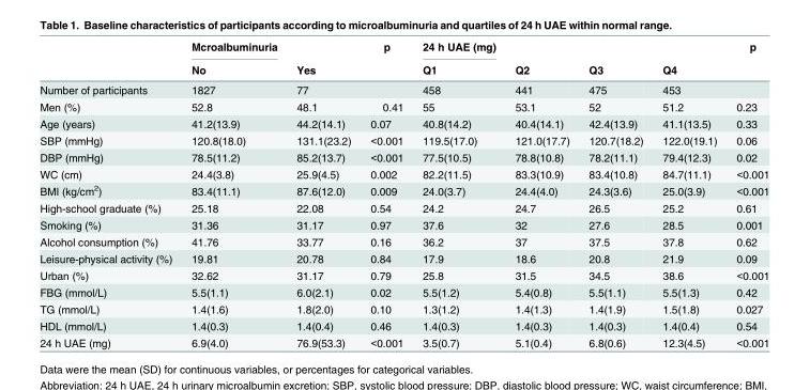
<table><thead><tr><td rowspan="2"></td><td rowspan="2">Mcroalbuminuria No</td><td rowspan="2">Yes</td><td rowspan="2">p</td><td rowspan="2">24 h UAE (mg) Q1</td><td rowspan="2">Q2</td><td rowspan="2">Q3</td><td rowspan="2">Q4</td><td rowspan="2">p</td></tr><tr></tr></thead><tbody><tr><td>Number of participants</td><td>1827</td><td>77</td><td></td><td>458</td><td>441</td><td>475</td><td>453</td><td></td></tr><tr><td>Men (%)</td><td>52.8</td><td>48.1</td><td>0.41</td><td>55</td><td>53.1</td><td>52</td><td>51.2</td><td>0.23</td></tr><tr><td>Age (years)</td><td>41.2(13.9)</td><td>44.2(14.1)</td><td>0.07</td><td>40.8(14.2)</td><td>40.4(14.1)</td><td>42.4(13.9)</td><td>41.1(13.5)</td><td>0.33</td></tr><tr><td>SBP (mmHg)</td><td>120.8(18.0)</td><td>131.1(23.2)</td><td>&lt;0.001</td><td>119.5(17.0)</td><td>121.0(17.7)</td><td>120.7(18.2)</td><td>122.0(19.1)</td><td>0.06</td></tr><tr><td>DBP (mmHg)</td><td>78.5(11.2)</td><td>85.2(13.7)</td><td>&lt;0.001</td><td>77.5(10.5)</td><td>78.8(10.8)</td><td>78.2(11.1)</td><td>79.4(12.3)</td><td>0.02</td></tr><tr><td>WC (cm)</td><td>24.4(3.8)</td><td>25.9(4.5)</td><td>0.002</td><td>82.2(11.5)</td><td>83.3(10.9)</td><td>83.4(10.8)</td><td>84.7(11.1)</td><td>&lt;0.001</td></tr><tr><td>BMI (kg/cm<sup>2</sup>)</td><td>83.4(11.1)</td><td>87.6(12.0)</td><td>0.009</td><td>24.0(3.7)</td><td>24.4(4.0)</td><td>24.3(3.6)</td><td>25.0(3.9)</td><td>&lt;0.001</td></tr><tr><td>High-school graduate (%)</td><td>25.18</td><td>22.08</td><td>0.54</td><td>24.2</td><td>24.7</td><td>26.5</td><td>25.2</td><td>0.61</td></tr><tr><td>Smoking (%)</td><td>31.36</td><td>31.17</td><td>0.97</td><td>37.6</td><td>32</td><td>27.6</td><td>28.5</td><td>0.001</td></tr><tr><td>Alcohol consumption (%)</td><td>41.76</td><td>33.77</td><td>0.16</td><td>36.2</td><td>37</td><td>37.5</td><td>37.8</td><td>0.62</td></tr><tr><td>Leisure-physical activity (%)</td><td>19.81</td><td>20.78</td><td>0.84</td><td>17.9</td><td>18.6</td><td>20.8</td><td>21.9</td><td>0.09</td></tr><tr><td>Urban (%)</td><td>32.62</td><td>31.17</td><td>0.79</td><td>25.8</td><td>31.5</td><td>34.5</td><td>38.6</td><td>&lt;0.001</td></tr><tr><td>FBG (mmol/L)</td><td>5.5(1.1)</td><td>6.0(2.1)</td><td>0.02</td><td>5.5(1.2)</td><td>5.4(0.8)</td><td>5.5(1.1)</td><td>5.5(1.3)</td><td>0.42</td></tr><tr><td>TG (mmol/L)</td><td>1.4(1.6)</td><td>1.8(2.0)</td><td>0.10</td><td>1.3(1.2)</td><td>1.4(1.3)</td><td>1.4(1.9)</td><td>1.5(1.8)</td><td>0.027</td></tr><tr><td>HDL (mmol/L)</td><td>1.4(0.3)</td><td>1.4(0.4)</td><td>0.46</td><td>1.4(0.3)</td><td>1.4(0.3)</td><td>1.4(0.3)</td><td>1.4(0.4)</td><td>0.54</td></tr><tr><td>24 h UAE (mg)</td><td>6.9(4.0)</td><td>76.9(53.3)</td><td>&lt;0.001</td><td>3.5(0.7)</td><td>5.1(0.4)</td><td>6.8(0.6)</td><td>12.3(4.5)</td><td>&lt;0.001</td></tr></tbody></table>